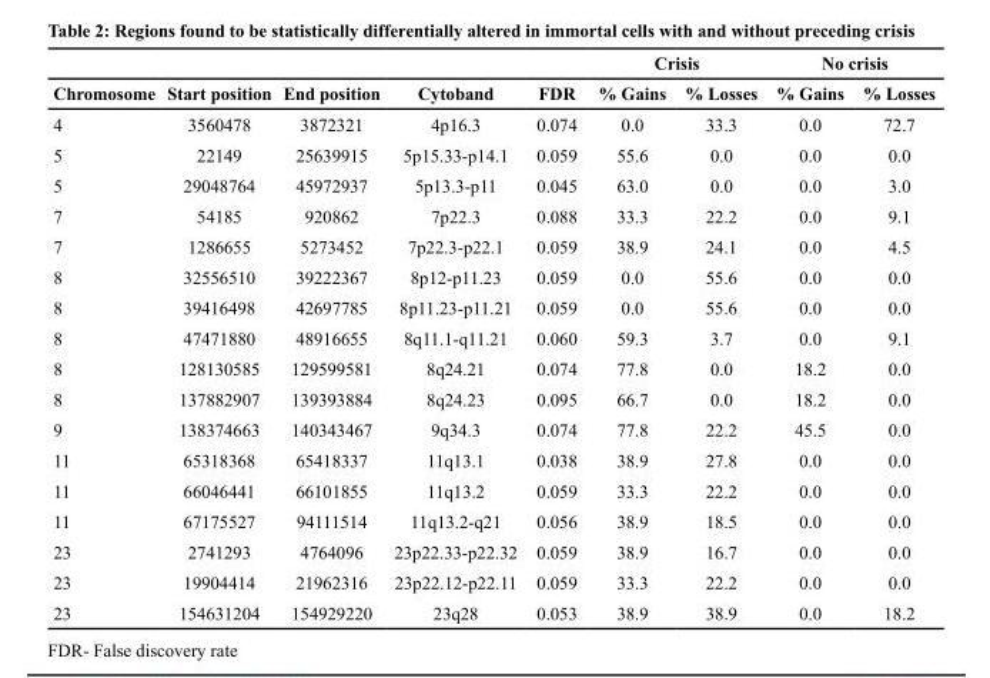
<table><thead><tr><td rowspan="2">Chromosome</td><td rowspan="2">Start position</td><td rowspan="2">End position</td><td rowspan="2">Cytoband</td><td rowspan="2">FDR</td><td colspan="2">Crisis</td><td colspan="2">No crisis</td></tr><tr><td>% Gains</td><td>% Losses</td><td>% Gains</td><td>% Losses</td></tr></thead><tbody><tr><td>4</td><td>3560478</td><td>3872321</td><td>4p16.3</td><td>0.074</td><td>0.0</td><td>33.3</td><td>0.0</td><td>72.7</td></tr><tr><td>5</td><td>22149</td><td>25639915</td><td>5p15.33-p14.1</td><td>0.059</td><td>55.6</td><td>0.0</td><td>0.0</td><td>0.0</td></tr><tr><td>5</td><td>29048764</td><td>45972937</td><td>5p13.3-p11</td><td>0.045</td><td>63.0</td><td>0.0</td><td>0.0</td><td>3.0</td></tr><tr><td>7</td><td>54185</td><td>920862</td><td>7p22.3</td><td>0.088</td><td>33.3</td><td>22.2</td><td>0.0</td><td>9.1</td></tr><tr><td>7</td><td>1286655</td><td>5273452</td><td>7p22.3-p22.1</td><td>0.059</td><td>38.9</td><td>24.1</td><td>0.0</td><td>4.5</td></tr><tr><td>8</td><td>32556510</td><td>39222367</td><td>8p12-p11.23</td><td>0.059</td><td>0.0</td><td>55.6</td><td>0.0</td><td>0.0</td></tr><tr><td>8</td><td>39416498</td><td>42697785</td><td>8p11.23-p11.21</td><td>0.059</td><td>0.0</td><td>55.6</td><td>0.0</td><td>0.0</td></tr><tr><td>8</td><td>47471880</td><td>48916655</td><td>8q11.1-q11.21</td><td>0.060</td><td>59.3</td><td>3.7</td><td>0.0</td><td>9.1</td></tr><tr><td>8</td><td>128130585</td><td>129599581</td><td>8q24.21</td><td>0.074</td><td>77.8</td><td>0.0</td><td>18.2</td><td>0.0</td></tr><tr><td>8</td><td>137882907</td><td>139393884</td><td>8q24.23</td><td>0.095</td><td>66.7</td><td>0.0</td><td>18.2</td><td>0.0</td></tr><tr><td>9</td><td>138374663</td><td>140343467</td><td>9q34.3</td><td>0.074</td><td>77.8</td><td>22.2</td><td>45.5</td><td>0.0</td></tr><tr><td>11</td><td>65318368</td><td>65418337</td><td>11q13.1</td><td>0.038</td><td>38.9</td><td>27.8</td><td>0.0</td><td>0.0</td></tr><tr><td>11</td><td>66046441</td><td>66101855</td><td>11q13.2</td><td>0.059</td><td>33.3</td><td>22.2</td><td>0.0</td><td>0.0</td></tr><tr><td>11</td><td>67175527</td><td>94111514</td><td>11q13.2-q21</td><td>0.056</td><td>38.9</td><td>18.5</td><td>0.0</td><td>0.0</td></tr><tr><td>23</td><td>2741293</td><td>4764096</td><td>23p22.33-p22.32</td><td>0.059</td><td>38.9</td><td>16.7</td><td>0.0</td><td>0.0</td></tr><tr><td>23</td><td>19904414</td><td>21962316</td><td>23p22.12-p22.11</td><td>0.059</td><td>33.3</td><td>22.2</td><td>0.0</td><td>0.0</td></tr><tr><td>23</td><td>154631204</td><td>154929220</td><td>23q28</td><td>0.053</td><td>38.9</td><td>38.9</td><td>0.0</td><td>18.2</td></tr></tbody></table>